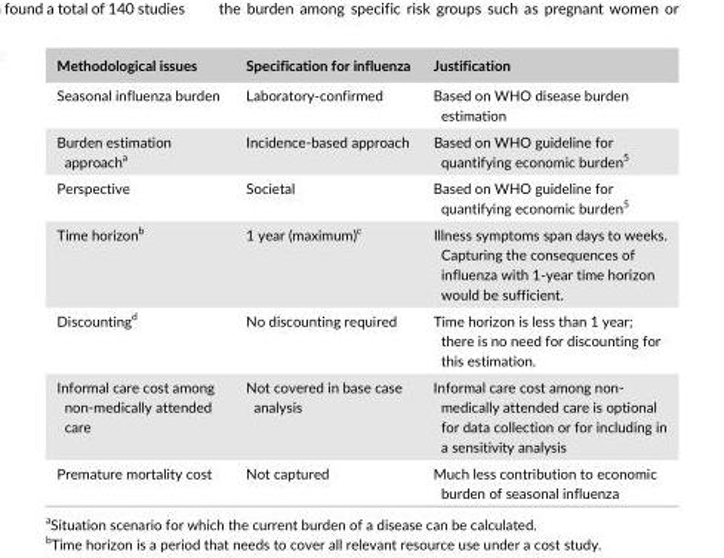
<table><thead><tr><td>Methodological issues</td><td>Specification for influenza</td><td>Justification</td></tr></thead><tbody><tr><td>Seasonal influenza burden</td><td>Laboratory- confirmed</td><td>Based on WHO disease burden estimation</td></tr><tr><td>Burden estimation approach<sup>a</sup></td><td>Incidence- based approach</td><td>Based on WHO guideline for quantifying economic burden<sup>5</sup></td></tr><tr><td>Perspective</td><td>Societal</td><td>Based on WHO guideline for quantifying economic burden<sup>5</sup></td></tr><tr><td>Time horizon<sup>b</sup></td><td>1 year (maximum)<sup>c</sup></td><td>Illness symptoms span days to weeks. Capturing the consequences of influenza with 1- year time horizon would be sufficient.</td></tr><tr><td>Discounting<sup>d</sup></td><td>No discounting required</td><td>Time horizon is less than 1 year; there is no need for discounting for this estimation.</td></tr><tr><td>Informal care cost among non- medically attended care</td><td>Not covered in base case analysis</td><td>Informal care cost among non- medically attended care is optional for data collection or for including in a sensitivity analysis</td></tr><tr><td>Premature mortality cost</td><td>Not captured</td><td>Much less contribution to economic burden of seasonal influenza</td></tr></tbody></table>